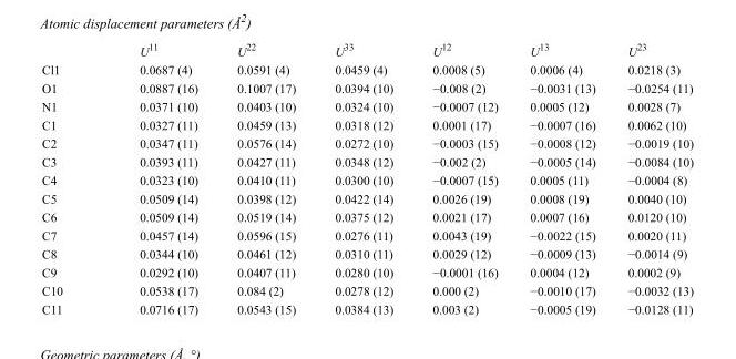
<table><thead><tr><td></td><td>U<sup>11</sup></td><td>U<sup>22</sup></td><td>U<sup>33</sup></td><td>U<sup>12</sup></td><td>U<sup>13</sup></td><td>U<sup>23</sup></td></tr></thead><tbody><tr><td>Cl1</td><td>0.0687 (4)</td><td>0.0591 (4)</td><td>0.0459 (4)</td><td>0.0008 (5)</td><td>0.0006 (4)</td><td>0.0218 (3)</td></tr><tr><td>O1</td><td>0.0887 (16)</td><td>0.1007 (17)</td><td>0.0394 (10)</td><td>−0.008 (2)</td><td>−0.0031 (13)</td><td>−0.0254 (11)</td></tr><tr><td>N1</td><td>0.0371 (10)</td><td>0.0403 (10)</td><td>0.0324 (10)</td><td>−0.0007 (12)</td><td>0.0005 (12)</td><td>0.0028 (7)</td></tr><tr><td>C1</td><td>0.0327 (11)</td><td>0.0459 (13)</td><td>0.0318 (12)</td><td>0.0001 (17)</td><td>−0.0007 (16)</td><td>0.0062 (10)</td></tr><tr><td>C2</td><td>0.0347 (11)</td><td>0.0576 (14)</td><td>0.0272 (10)</td><td>−0.0003 (15)</td><td>−0.0008 (12)</td><td>−0.0019 (10)</td></tr><tr><td>C3</td><td>0.0393 (11)</td><td>0.0427 (11)</td><td>0.0348 (12)</td><td>−0.002 (2)</td><td>−0.0005 (14)</td><td>−0.0084 (10)</td></tr><tr><td>C4</td><td>0.0323 (10)</td><td>0.0410 (11)</td><td>0.0300 (10)</td><td>−0.0007 (15)</td><td>0.0005 (11)</td><td>−0.0004 (8)</td></tr><tr><td>C5</td><td>0.0509 (14)</td><td>0.0398 (12)</td><td>0.0422 (14)</td><td>0.0026 (19)</td><td>0.0008 (19)</td><td>0.0040 (10)</td></tr><tr><td>C6</td><td>0.0509 (14)</td><td>0.0519 (14)</td><td>0.0375 (12)</td><td>0.0021 (17)</td><td>0.0007 (16)</td><td>0.0120 (10)</td></tr><tr><td>C7</td><td>0.0457 (14)</td><td>0.0596 (15)</td><td>0.0276 (11)</td><td>0.0043 (19)</td><td>−0.0022 (15)</td><td>0.0020 (11)</td></tr><tr><td>C8</td><td>0.0344 (10)</td><td>0.0461 (12)</td><td>0.0310 (11)</td><td>0.0029 (12)</td><td>−0.0009 (13)</td><td>−0.0014 (9)</td></tr><tr><td>C9</td><td>0.0292 (10)</td><td>0.0407 (11)</td><td>0.0280 (10)</td><td>−0.0001 (16)</td><td>0.0004 (12)</td><td>0.0002 (9)</td></tr><tr><td>C10</td><td>0.0538 (17)</td><td>0.084 (2)</td><td>0.0278 (12)</td><td>0.000 (2)</td><td>−0.0010 (17)</td><td>−0.0032 (13)</td></tr><tr><td>C11</td><td>0.0716 (17)</td><td>0.0543 (15)</td><td>0.0384 (13)</td><td>0.003 (2)</td><td>−0.0005 (19)</td><td>−0.0128 (11)</td></tr></tbody></table>